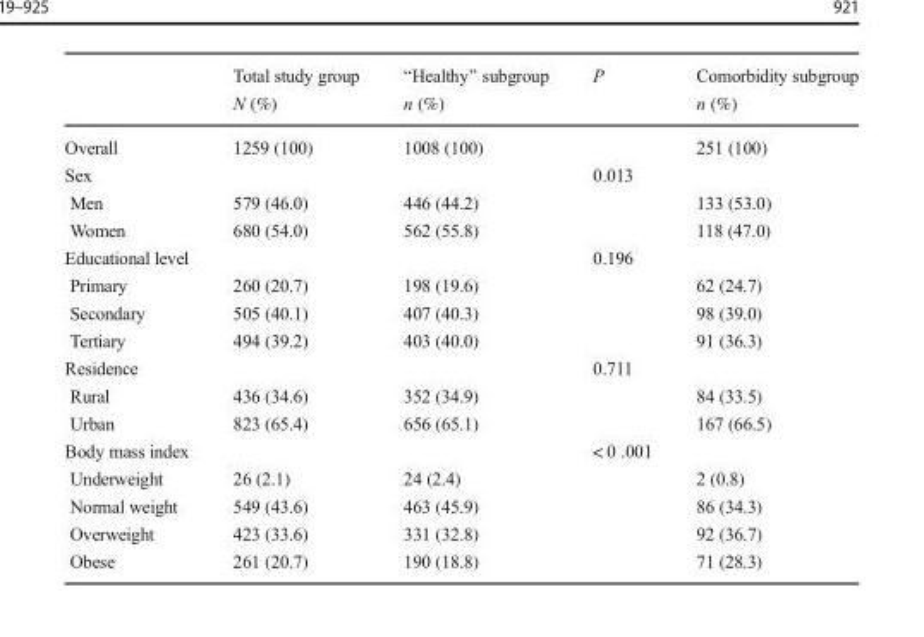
<table><thead><tr><td></td><td>Total study group N (%)</td><td>“Healthy” subgroup n (%)</td><td>P</td><td>Comorbidity subgroup n (%)</td></tr></thead><tbody><tr><td>Overall</td><td>1259 (100)</td><td>1008 (100)</td><td></td><td>251 (100)</td></tr><tr><td>Sex</td><td></td><td></td><td>0.013</td><td></td></tr><tr><td>Men</td><td>579 (46.0)</td><td>446 (44.2)</td><td></td><td>133 (53.0)</td></tr><tr><td>Women</td><td>680 (54.0)</td><td>562 (55.8)</td><td></td><td>118 (47.0)</td></tr><tr><td>Educational level</td><td></td><td></td><td>0.196</td><td></td></tr><tr><td>Primary</td><td>260 (20.7)</td><td>198 (19.6)</td><td></td><td>62 (24.7)</td></tr><tr><td>Secondary</td><td>505 (40.1)</td><td>407 (40.3)</td><td></td><td>98 (39.0)</td></tr><tr><td>Tertiary</td><td>494 (39.2)</td><td>403 (40.0)</td><td></td><td>91 (36.3)</td></tr><tr><td>Residence</td><td></td><td></td><td>0.711</td><td></td></tr><tr><td>Rural</td><td>436 (34.6)</td><td>352 (34.9)</td><td></td><td>84 (33.5)</td></tr><tr><td>Urban</td><td>823 (65.4)</td><td>656 (65.1)</td><td></td><td>167 (66.5)</td></tr><tr><td>Body mass index</td><td></td><td></td><td>&lt; 0 .001</td><td></td></tr><tr><td>Underweight</td><td>26 (2.1)</td><td>24 (2.4)</td><td></td><td>2 (0.8)</td></tr><tr><td>Normal weight</td><td>549 (43.6)</td><td>463 (45.9)</td><td></td><td>86 (34.3)</td></tr><tr><td>Overweight</td><td>423 (33.6)</td><td>331 (32.8)</td><td></td><td>92 (36.7)</td></tr><tr><td>Obese</td><td>261 (20.7)</td><td>190 (18.8)</td><td></td><td>71 (28.3)</td></tr></tbody></table>